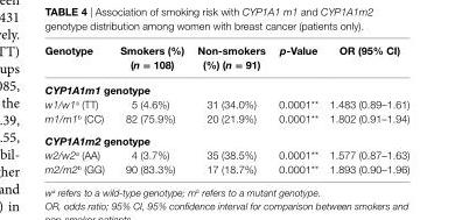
<table><thead><tr><td>genotype</td><td>smokers (%) (n = 108)</td><td>non-smokers (%) (n = 91)</td><td>p-Value</td><td>Or (95% ci)</td></tr></thead><tbody><tr><td colspan="5">CYP1A1m1 genotype</td></tr><tr><td>w1/w1<sup>a</sup> (TT)</td><td>5 (4.6%)</td><td>31 (34.0%)</td><td>0.0001**</td><td>1.483 (0.89–1.61)</td></tr><tr><td>m1/m1<sup>b</sup> (CC)</td><td>82 (75.9%)</td><td>20 (21.9%)</td><td>0.0001**</td><td>1.802 (0.91–1.94)</td></tr><tr><td colspan="5">CYP1A1m2 genotype</td></tr><tr><td>w2/w2<sup>a</sup> (AA)</td><td>4 (3.7%)</td><td>35 (38.5%)</td><td>0.0001**</td><td>1.577 (0.87–1.63)</td></tr><tr><td>m2/m2<sup>b</sup> (GG)</td><td>90 (83.3%)</td><td>17 (18.7%)</td><td>0.0001**</td><td>1.893 (0.90–1.96)</td></tr></tbody></table>